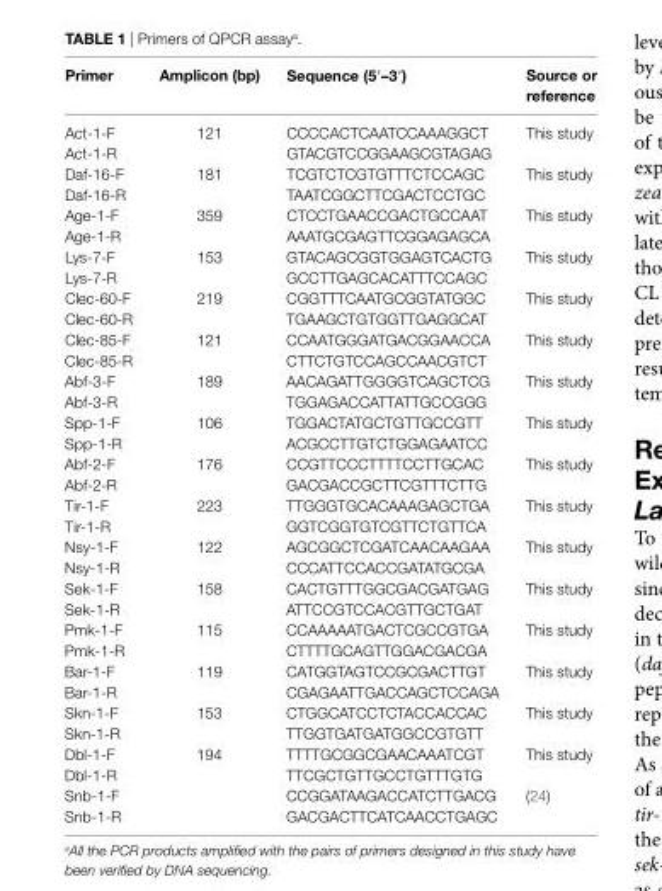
<table><thead><tr><td>Primer</td><td>amplicon (bp)</td><td>sequence (5′–3′)</td><td>source or reference</td></tr></thead><tbody><tr><td>Act-1-F</td><td>121</td><td>CCCCACTCAATCCAAAGGCT</td><td>This study</td></tr><tr><td>Act-1-R</td><td></td><td>GTACGTCCGGAAGCGTAGAG</td><td></td></tr><tr><td>Daf-16-F</td><td>181</td><td>TCGTCTCGTGTTTCTCCAGC</td><td>This study</td></tr><tr><td>Daf-16-R</td><td></td><td>TAATCGGCTTCGACTCCTGC</td><td></td></tr><tr><td>Age-1-F</td><td>359</td><td>CTCCTGAACCGACTGCCAAT</td><td>This study</td></tr><tr><td>Age-1-R</td><td></td><td>AAATGCGAGTTCGGAGAGCA</td><td></td></tr><tr><td>Lys-7-F</td><td>153</td><td>GTACAGCGGTGGAGTCACTG</td><td>This study</td></tr><tr><td>Lys-7-R</td><td></td><td>GCCTTGAGCACATTTCCAGC</td><td></td></tr><tr><td>Clec-60-F</td><td>219</td><td>CGGTTTCAATGCGGTATGGC</td><td>This study</td></tr><tr><td>Clec-60-R</td><td></td><td>TGAAGCTGTGGTTGAGGCAT</td><td></td></tr><tr><td>Clec-85-F</td><td>121</td><td>CCAATGGGATGACGGAACCA</td><td>This study</td></tr><tr><td>Clec-85-R</td><td></td><td>CTTCTGTCCAGCCAACGTCT</td><td></td></tr><tr><td>Abf-3-F</td><td>189</td><td>AACAGATTGGGGTCAGCTCG</td><td>This study</td></tr><tr><td>Abf-3-R</td><td></td><td>TGGAGACCATTATTGCCGGG</td><td></td></tr><tr><td>Spp-1-F</td><td>106</td><td>TGGACTATGCTGTTGCCGTT</td><td>This study</td></tr><tr><td>Spp-1-R</td><td></td><td>ACGCCTTGTCTGGAGAATCC</td><td></td></tr><tr><td>Abf-2-F</td><td>176</td><td>CCGTTCCCTTTTCCTTGCAC</td><td>This study</td></tr><tr><td>Abf-2-R</td><td></td><td>GACGACCGCTTCGTTTCTTG</td><td></td></tr><tr><td>Tir-1-F</td><td>223</td><td>TTGGGTGCACAAAGAGCTGA</td><td>This study</td></tr><tr><td>Tir-1-R</td><td></td><td>GGTCGGTGTCGTTCTGTTCA</td><td></td></tr><tr><td>Nsy-1-F</td><td>122</td><td>AGCGGCTCGATCAACAAGAA</td><td>This study</td></tr><tr><td>Nsy-1-R</td><td></td><td>CCCATTCCACCGATATGCGA</td><td></td></tr><tr><td>Sek-1-F</td><td>158</td><td>CACTGTTTGGCGACGATGAG</td><td>This study</td></tr><tr><td>Sek-1-R</td><td></td><td>ATTCCGTCCACGTTGCTGAT</td><td></td></tr><tr><td>Pmk-1-F</td><td>115</td><td>CCAAAAATGACTCGCCGTGA</td><td>This study</td></tr><tr><td>Pmk-1-R</td><td></td><td>CTTTTGCAGTTGGACGACGA</td><td></td></tr><tr><td>Bar-1-F</td><td>119</td><td>CATGGTAGTCCGCGACTTGT</td><td>This study</td></tr><tr><td>Bar-1-R</td><td></td><td>CGAGAATTGACCAGCTCCAGA</td><td></td></tr><tr><td>Skn-1-F</td><td>153</td><td>CTGGCATCCTCTACCACCAC</td><td>This study</td></tr><tr><td>Skn-1-R</td><td></td><td>TTGGTGATGATGGCCGTGTT</td><td></td></tr><tr><td>Dbl-1-F</td><td>194</td><td>TTTTGCGGCGAACAAATCGT</td><td>This study</td></tr><tr><td>Dbl-1-R</td><td></td><td>TTCGCTGTTGCCTGTTTGTG</td><td></td></tr><tr><td>Snb-1-F</td><td></td><td>CCGGATAAGACCATCTTGACG</td><td rowspan="2">(24)</td></tr><tr><td>Snb-1-R</td><td></td><td>GACGACTTCATCAACCTGAGC</td></tr></tbody></table>